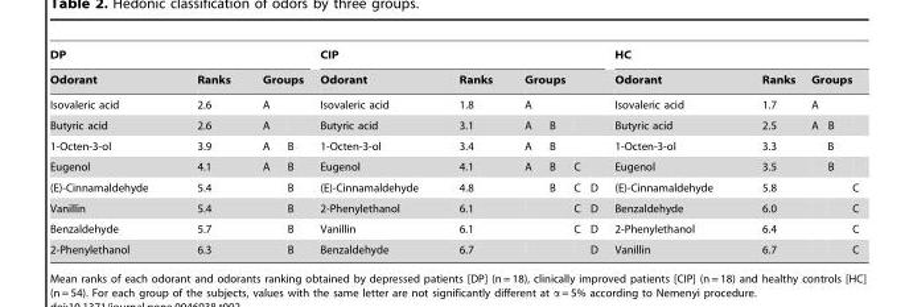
<table><thead><tr><td colspan="4">DP</td><td colspan="6">CIP</td><td colspan="5">HC</td></tr><tr><td rowspan="2">Odorant Isovaleric acid</td><td rowspan="2">Ranks 2.6</td><td colspan="2">Groups</td><td rowspan="2">Odorant Isovaleric acid</td><td rowspan="2">Ranks 1.8</td><td colspan="4">Groups</td><td rowspan="2">Odorant Isovaleric acid</td><td rowspan="2">Ranks 1.7</td><td colspan="3">Groups</td></tr><tr><td>A</td><td></td><td>A</td><td></td><td></td><td></td><td>A</td><td></td><td></td></tr></thead><tbody><tr><td>Butyric acid</td><td>2.6</td><td>A</td><td></td><td>Butyric acid</td><td>3.1</td><td>A</td><td>B</td><td></td><td></td><td>Butyric acid</td><td>2.5</td><td>A</td><td>B</td><td></td></tr><tr><td>1-Octen-3-ol</td><td>3.9</td><td>A</td><td>B</td><td>1-Octen-3-ol</td><td>3.4</td><td>A</td><td>B</td><td></td><td></td><td>1-Octen-3-ol</td><td>3.3</td><td></td><td>B</td><td></td></tr><tr><td>Eugenol</td><td>4.1</td><td>A</td><td>B</td><td>Eugenol</td><td>4.1</td><td>A</td><td>B</td><td>C</td><td></td><td>Eugenol</td><td>3.5</td><td></td><td>B</td><td></td></tr><tr><td>(E)-Cinnamaldehyde</td><td>5.4</td><td></td><td>B</td><td>(E)-Cinnamaldehyde</td><td>4.8</td><td></td><td>B</td><td>C</td><td>D</td><td>(E)-Cinnamaldehyde</td><td>5.8</td><td></td><td></td><td>C</td></tr><tr><td>Vanillin</td><td>5.4</td><td></td><td>B</td><td>2-Phenylethanol</td><td>6.1</td><td></td><td></td><td>C</td><td>D</td><td>Benzaldehyde</td><td>6.0</td><td></td><td></td><td>C</td></tr><tr><td>Benzaldehyde</td><td>5.7</td><td></td><td>B</td><td>Vanillin</td><td>6.1</td><td></td><td></td><td>C</td><td>D</td><td>2-Phenylethanol</td><td>6.4</td><td></td><td></td><td>C</td></tr><tr><td>2-Phenylethanol</td><td>6.3</td><td></td><td>B</td><td>Benzaldehyde</td><td>6.7</td><td></td><td></td><td></td><td>D</td><td>Vanillin</td><td>6.7</td><td></td><td></td><td>C</td></tr></tbody></table>